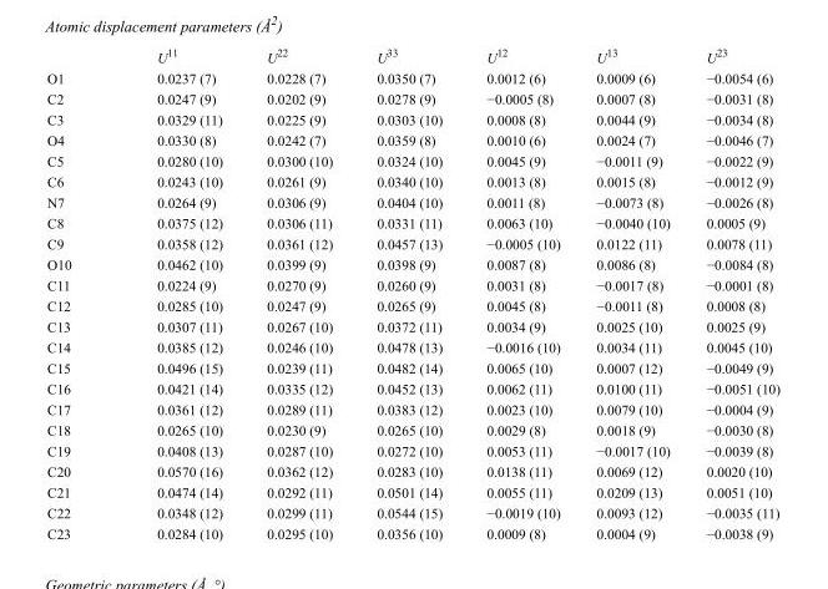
<table><thead><tr><td></td><td>U<sup>11</sup></td><td>U<sup>22</sup></td><td>U<sup>33</sup></td><td>U<sup>12</sup></td><td>U<sup>13</sup></td><td>U<sup>23</sup></td></tr></thead><tbody><tr><td>O1</td><td>0.0237 (7)</td><td>0.0228 (7)</td><td>0.0350 (7)</td><td>0.0012 (6)</td><td>0.0009 (6)</td><td>−0.0054 (6)</td></tr><tr><td>C2</td><td>0.0247 (9)</td><td>0.0202 (9)</td><td>0.0278 (9)</td><td>−0.0005 (8)</td><td>0.0007 (8)</td><td>−0.0031 (8)</td></tr><tr><td>C3</td><td>0.0329 (11)</td><td>0.0225 (9)</td><td>0.0303 (10)</td><td>0.0008 (8)</td><td>0.0044 (9)</td><td>−0.0034 (8)</td></tr><tr><td>O4</td><td>0.0330 (8)</td><td>0.0242 (7)</td><td>0.0359 (8)</td><td>0.0010 (6)</td><td>0.0024 (7)</td><td>−0.0046 (7)</td></tr><tr><td>C5</td><td>0.0280 (10)</td><td>0.0300 (10)</td><td>0.0324 (10)</td><td>0.0045 (9)</td><td>−0.0011 (9)</td><td>−0.0022 (9)</td></tr><tr><td>C6</td><td>0.0243 (10)</td><td>0.0261 (9)</td><td>0.0340 (10)</td><td>0.0013 (8)</td><td>0.0015 (8)</td><td>−0.0012 (9)</td></tr><tr><td>N7</td><td>0.0264 (9)</td><td>0.0306 (9)</td><td>0.0404 (10)</td><td>0.0011 (8)</td><td>−0.0073 (8)</td><td>−0.0026 (8)</td></tr><tr><td>C8</td><td>0.0375 (12)</td><td>0.0306 (11)</td><td>0.0331 (11)</td><td>0.0063 (10)</td><td>−0.0040 (10)</td><td>0.0005 (9)</td></tr><tr><td>C9</td><td>0.0358 (12)</td><td>0.0361 (12)</td><td>0.0457 (13)</td><td>−0.0005 (10)</td><td>0.0122 (11)</td><td>0.0078 (11)</td></tr><tr><td>O10</td><td>0.0462 (10)</td><td>0.0399 (9)</td><td>0.0398 (9)</td><td>0.0087 (8)</td><td>0.0086 (8)</td><td>−0.0084 (8)</td></tr><tr><td>C11</td><td>0.0224 (9)</td><td>0.0270 (9)</td><td>0.0260 (9)</td><td>0.0031 (8)</td><td>−0.0017 (8)</td><td>−0.0001 (8)</td></tr><tr><td>C12</td><td>0.0285 (10)</td><td>0.0247 (9)</td><td>0.0265 (9)</td><td>0.0045 (8)</td><td>−0.0011 (8)</td><td>0.0008 (8)</td></tr><tr><td>C13</td><td>0.0307 (11)</td><td>0.0267 (10)</td><td>0.0372 (11)</td><td>0.0034 (9)</td><td>0.0025 (10)</td><td>0.0025 (9)</td></tr><tr><td>C14</td><td>0.0385 (12)</td><td>0.0246 (10)</td><td>0.0478 (13)</td><td>−0.0016 (10)</td><td>0.0034 (11)</td><td>0.0045 (10)</td></tr><tr><td>C15</td><td>0.0496 (15)</td><td>0.0239 (11)</td><td>0.0482 (14)</td><td>0.0065 (10)</td><td>0.0007 (12)</td><td>−0.0049 (9)</td></tr><tr><td>C16</td><td>0.0421 (14)</td><td>0.0335 (12)</td><td>0.0452 (13)</td><td>0.0062 (11)</td><td>0.0100 (11)</td><td>−0.0051 (10)</td></tr><tr><td>C17</td><td>0.0361 (12)</td><td>0.0289 (11)</td><td>0.0383 (12)</td><td>0.0023 (10)</td><td>0.0079 (10)</td><td>−0.0004 (9)</td></tr><tr><td>C18</td><td>0.0265 (10)</td><td>0.0230 (9)</td><td>0.0265 (10)</td><td>0.0029 (8)</td><td>0.0018 (9)</td><td>−0.0030 (8)</td></tr><tr><td>C19</td><td>0.0408 (13)</td><td>0.0287 (10)</td><td>0.0272 (10)</td><td>0.0053 (11)</td><td>−0.0017 (10)</td><td>−0.0039 (8)</td></tr><tr><td>C20</td><td>0.0570 (16)</td><td>0.0362 (12)</td><td>0.0283 (10)</td><td>0.0138 (11)</td><td>0.0069 (12)</td><td>0.0020 (10)</td></tr><tr><td>C21</td><td>0.0474 (14)</td><td>0.0292 (11)</td><td>0.0501 (14)</td><td>0.0055 (11)</td><td>0.0209 (13)</td><td>0.0051 (10)</td></tr><tr><td>C22</td><td>0.0348 (12)</td><td>0.0299 (11)</td><td>0.0544 (15)</td><td>−0.0019 (10)</td><td>0.0093 (12)</td><td>−0.0035 (11)</td></tr><tr><td>C23</td><td>0.0284 (10)</td><td>0.0295 (10)</td><td>0.0356 (10)</td><td>0.0009 (8)</td><td>0.0004 (9)</td><td>−0.0038 (9)</td></tr></tbody></table>